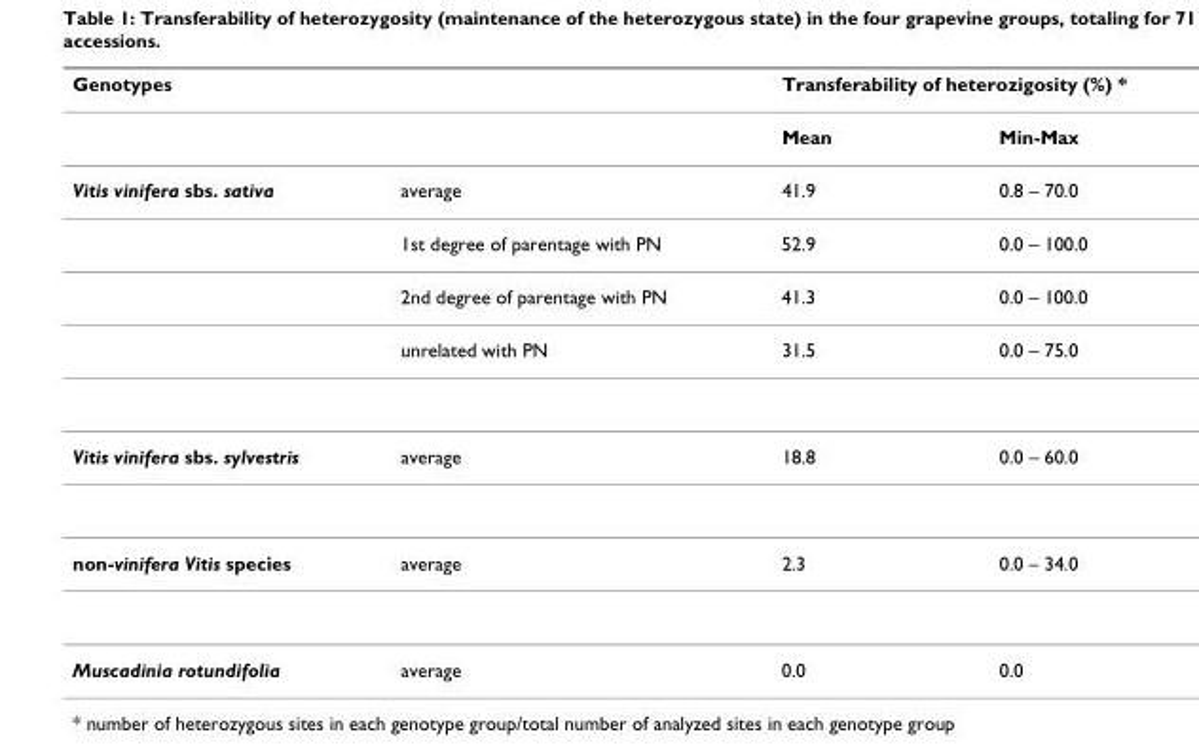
<table><thead><tr><td rowspan="2">Genotypes</td><td rowspan="2"></td><td colspan="2">Transferability of heterozigosity (%) *</td></tr><tr><td>Mean</td><td>Min-Max</td></tr></thead><tbody><tr><td rowspan="4">Vitis vinifera sbs. sativa</td><td>average</td><td>41.9</td><td>0.8 – 70.0</td></tr><tr><td>1st degree of parentage with PN</td><td>52.9</td><td>0.0 – 100.0</td></tr><tr><td>2nd degree of parentage with PN</td><td>41.3</td><td>0.0 – 100.0</td></tr><tr><td>unrelated with PN</td><td>31.5</td><td>0.0 – 75.0</td></tr><tr><td>Vitis vinifera sbs. sylvestris</td><td>average</td><td>18.8</td><td>0.0 – 60.0</td></tr><tr><td>non-vinifera Vitis species</td><td>average</td><td>2.3</td><td>0.0 – 34.0</td></tr><tr><td>Muscadinia rotundifolia</td><td>average</td><td>0.0</td><td>0.0</td></tr></tbody></table>